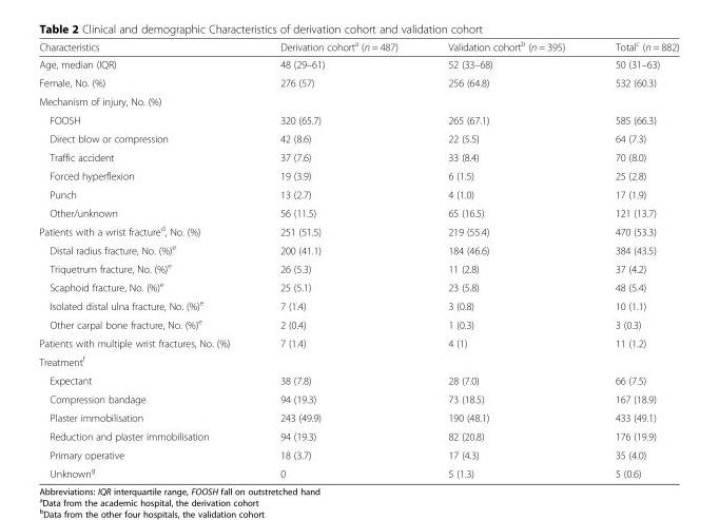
<table><thead><tr><td>Characteristics</td><td>Derivation cohort<sup>a</sup> (n = 487)</td><td>Validation cohort<sup>b</sup> (n = 395)</td><td>Total<sup>c</sup> (n = 882)</td></tr></thead><tbody><tr><td>Age, median (IQR)</td><td>48 (29–61)</td><td>52 (33–68)</td><td>50 (31–63)</td></tr><tr><td>Female, No. (%)</td><td>276 (57)</td><td>256 (64.8)</td><td>532 (60.3)</td></tr><tr><td colspan="4">Mechanism of injury, No. (%)</td></tr><tr><td>FOOSH</td><td>320 (65.7)</td><td>265 (67.1)</td><td>585 (66.3)</td></tr><tr><td>Direct blow or compression</td><td>42 (8.6)</td><td>22 (5.5)</td><td>64 (7.3)</td></tr><tr><td>Traffic accident</td><td>37 (7.6)</td><td>33 (8.4)</td><td>70 (8.0)</td></tr><tr><td>Forced hyperflexion</td><td>19 (3.9)</td><td>6 (1.5)</td><td>25 (2.8)</td></tr><tr><td>Punch</td><td>13 (2.7)</td><td>4 (1.0)</td><td>17 (1.9)</td></tr><tr><td>Other/unknown</td><td>56 (11.5)</td><td>65 (16.5)</td><td>121 (13.7)</td></tr><tr><td>Patients with a wrist fracture<sup>d</sup>, No. (%)</td><td>251 (51.5)</td><td>219 (55.4)</td><td>470 (53.3)</td></tr><tr><td>Distal radius fracture, No. (%)<sup>e</sup></td><td>200 (41.1)</td><td>184 (46.6)</td><td>384 (43.5)</td></tr><tr><td>Triquetrum fracture, No. (%)<sup>e</sup></td><td>26 (5.3)</td><td>11 (2.8)</td><td>37 (4.2)</td></tr><tr><td>Scaphoid fracture, No. (%)<sup>e</sup></td><td>25 (5.1)</td><td>23 (5.8)</td><td>48 (5.4)</td></tr><tr><td>Isolated distal ulna fracture, No. (%)<sup>e</sup></td><td>7 (1.4)</td><td>3 (0.8)</td><td>10 (1.1)</td></tr><tr><td>Other carpal bone fracture, No. (%)<sup>e</sup></td><td>2 (0.4)</td><td>1 (0.3)</td><td>3 (0.3)</td></tr><tr><td>Patients with multiple wrist fractures, No. (%)</td><td>7 (1.4)</td><td>4 (1)</td><td>11 (1.2)</td></tr><tr><td colspan="4">Treatment<sup>f</sup></td></tr><tr><td>Expectant</td><td>38 (7.8)</td><td>28 (7.0)</td><td>66 (7.5)</td></tr><tr><td>Compression bandage</td><td>94 (19.3)</td><td>73 (18.5)</td><td>167 (18.9)</td></tr><tr><td>Plaster immobilisation</td><td>243 (49.9)</td><td>190 (48.1)</td><td>433 (49.1)</td></tr><tr><td>Reduction and plaster immobilisation</td><td>94 (19.3)</td><td>82 (20.8)</td><td>176 (19.9)</td></tr><tr><td>Primary operative</td><td>18 (3.7)</td><td>17 (4.3)</td><td>35 (4.0)</td></tr><tr><td>Unknown<sup>g</sup></td><td>0</td><td>5 (1.3)</td><td>5 (0.6)</td></tr></tbody></table>